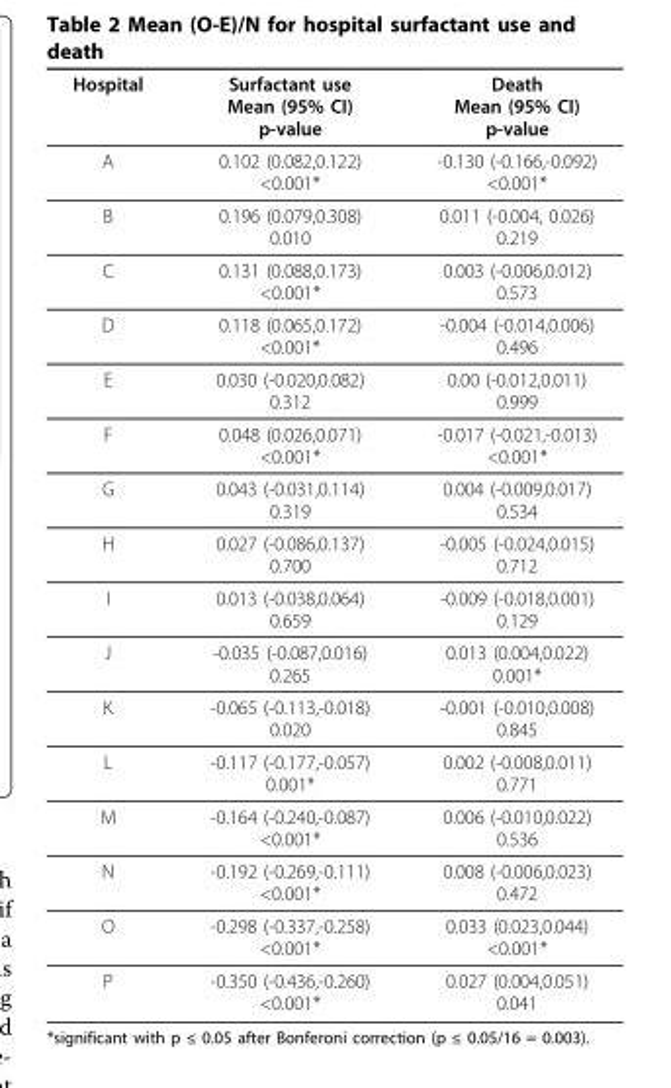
<table><thead><tr><td>Hospital</td><td>Surfactant use Mean (95% CI) p-value</td><td>Death Mean (95% CI) p-value</td></tr></thead><tbody><tr><td>A</td><td>0.102 (0.082,0.122) &lt;0.001*</td><td>-0.130 (-0.166,-0.092) &lt;0.001*</td></tr><tr><td>B</td><td>0.196 (0.079,0.308) 0.010</td><td>0.011 (-0.004, 0.026) 0.219</td></tr><tr><td>C</td><td>0.131 (0.088,0.173) &lt;0.001*</td><td>0.003 (-0.006,0.012) 0.573</td></tr><tr><td>D</td><td>0.118 (0.065,0.172) &lt;0.001*</td><td>-0.004 (-0.014,0.006) 0.496</td></tr><tr><td>E</td><td>0.030 (-0.020,0.082) 0.312</td><td>0.00 (-0.012,0.011) 0.999</td></tr><tr><td>F</td><td>0.048 (0.026,0.071) &lt;0.001*</td><td>-0.017 (-0.021,-0.013) &lt;0.001*</td></tr><tr><td>G</td><td>0.043 (-0.031,0.114) 0.319</td><td>0.004 (-0.009,0.017) 0.534</td></tr><tr><td>H</td><td>0.027 (-0.086,0.137) 0.700</td><td>-0.005 (-0.024,0.015) 0.712</td></tr><tr><td>I</td><td>0.013 (-0.038,0.064) 0.659</td><td>-0.009 (-0.018,0.001) 0.129</td></tr><tr><td>J</td><td>-0.035 (-0.087,0.016) 0.265</td><td>0.013 (0.004,0.022) 0.001*</td></tr><tr><td>K</td><td>-0.065 (-0.113,-0.018) 0.020</td><td>-0.001 (-0.010,0.008) 0.845</td></tr><tr><td>L</td><td>-0.117 (-0.177,-0.057) 0.001*</td><td>0.002 (-0.008,0.011) 0.771</td></tr><tr><td>M</td><td>-0.164 (-0.240,-0.087) &lt;0.001*</td><td>0.006 (-0.010,0.022) 0.536</td></tr><tr><td>N</td><td>-0.192 (-0.269,-0.111) &lt;0.001*</td><td>0.008 (-0.006,0.023) 0.472</td></tr><tr><td>O</td><td>-0.298 (-0.337,-0.258) &lt;0.001*</td><td>0.033 (0.023,0.044) &lt;0.001*</td></tr><tr><td>P</td><td>-0.350 (-0.436,-0.260) &lt;0.001*</td><td>0.027 (0.004,0.051) 0.041</td></tr></tbody></table>